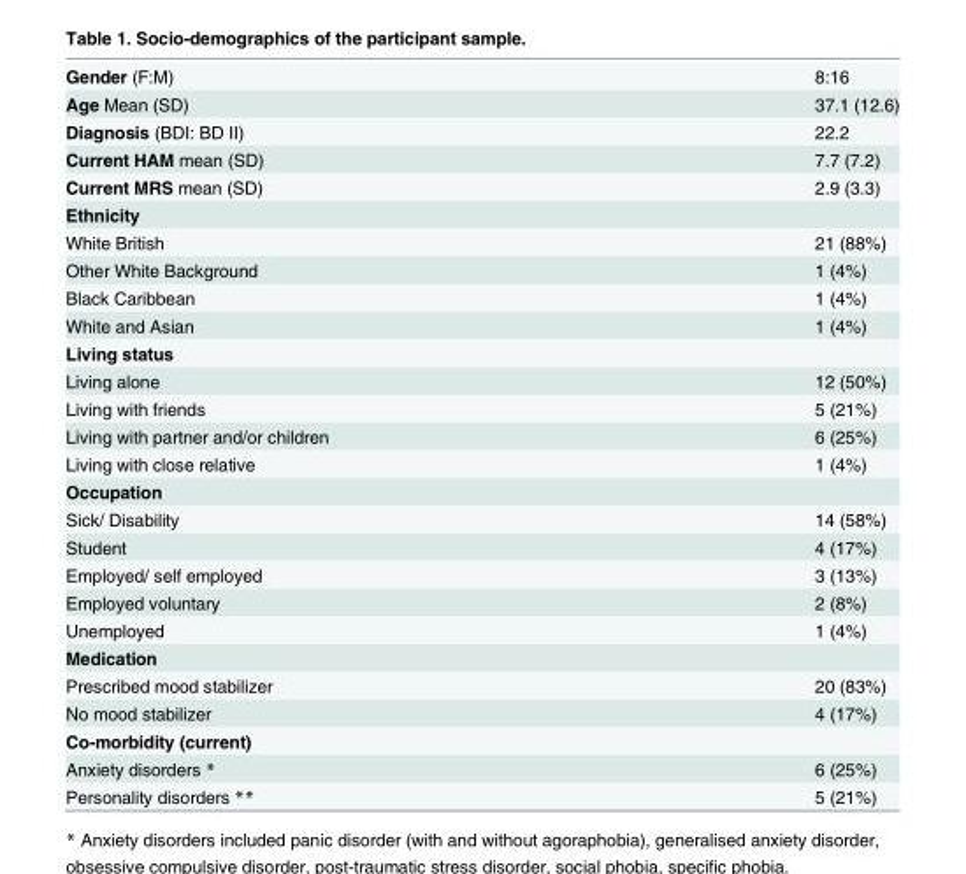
<table><tbody><tr><td>Gender (F:M)</td><td>8:16</td></tr><tr><td>Age Mean (SD)</td><td>37.1 (12.6)</td></tr><tr><td>Diagnosis (BDI: BD II)</td><td>22.2</td></tr><tr><td>Current HAM mean (SD)</td><td>7.7 (7.2)</td></tr><tr><td>Current MRS mean (SD)</td><td>2.9 (3.3)</td></tr><tr><td colspan="2">Ethnicity</td></tr><tr><td>White British</td><td>21 (88%)</td></tr><tr><td>Other White Background</td><td>1 (4%)</td></tr><tr><td>Black Caribbean</td><td>1 (4%)</td></tr><tr><td>White and Asian</td><td>1 (4%)</td></tr><tr><td colspan="2">Living status</td></tr><tr><td>Living alone</td><td>12 (50%)</td></tr><tr><td>Living with friends</td><td>5 (21%)</td></tr><tr><td>Living with partner and/or children</td><td>6 (25%)</td></tr><tr><td>Living with close relative</td><td>1 (4%)</td></tr><tr><td colspan="2">Occupation</td></tr><tr><td>Sick/ Disability</td><td>14 (58%)</td></tr><tr><td>Student</td><td>4 (17%)</td></tr><tr><td>Employed/ self employed</td><td>3 (13%)</td></tr><tr><td>Employed voluntary</td><td>2 (8%)</td></tr><tr><td>Unemployed</td><td>1 (4%)</td></tr><tr><td colspan="2">Medication</td></tr><tr><td>Prescribed mood stabilizer</td><td>20 (83%)</td></tr><tr><td>No mood stabilizer</td><td>4 (17%)</td></tr><tr><td colspan="2">Co-morbidity (current)</td></tr><tr><td>Anxiety disorders *</td><td>6 (25%)</td></tr><tr><td>Personality disorders **</td><td>5 (21%)</td></tr></tbody></table>